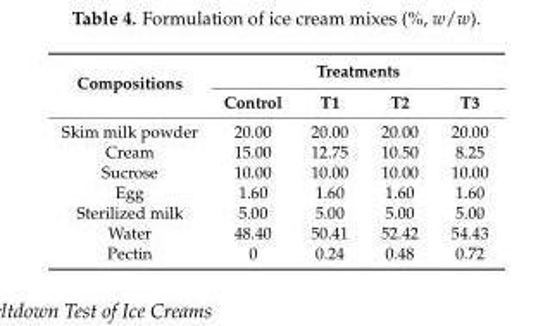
<table><thead><tr><td rowspan="2">Compositions</td><td colspan="4">Treatments</td></tr><tr><td>Control</td><td>T1</td><td>T2</td><td>T3</td></tr></thead><tbody><tr><td>Skim milk powder</td><td>20.00</td><td>20.00</td><td>20.00</td><td>20.00</td></tr><tr><td>Cream</td><td>15.00</td><td>12.75</td><td>10.50</td><td>8.25</td></tr><tr><td>Sucrose</td><td>10.00</td><td>10.00</td><td>10.00</td><td>10.00</td></tr><tr><td>Egg</td><td>1.60</td><td>1.60</td><td>1.60</td><td>1.60</td></tr><tr><td>Sterilized milk</td><td>5.00</td><td>5.00</td><td>5.00</td><td>5.00</td></tr><tr><td>Water</td><td>48.40</td><td>50.41</td><td>52.42</td><td>54.43</td></tr><tr><td>Pectin</td><td>0</td><td>0.24</td><td>0.48</td><td>0.72</td></tr></tbody></table>